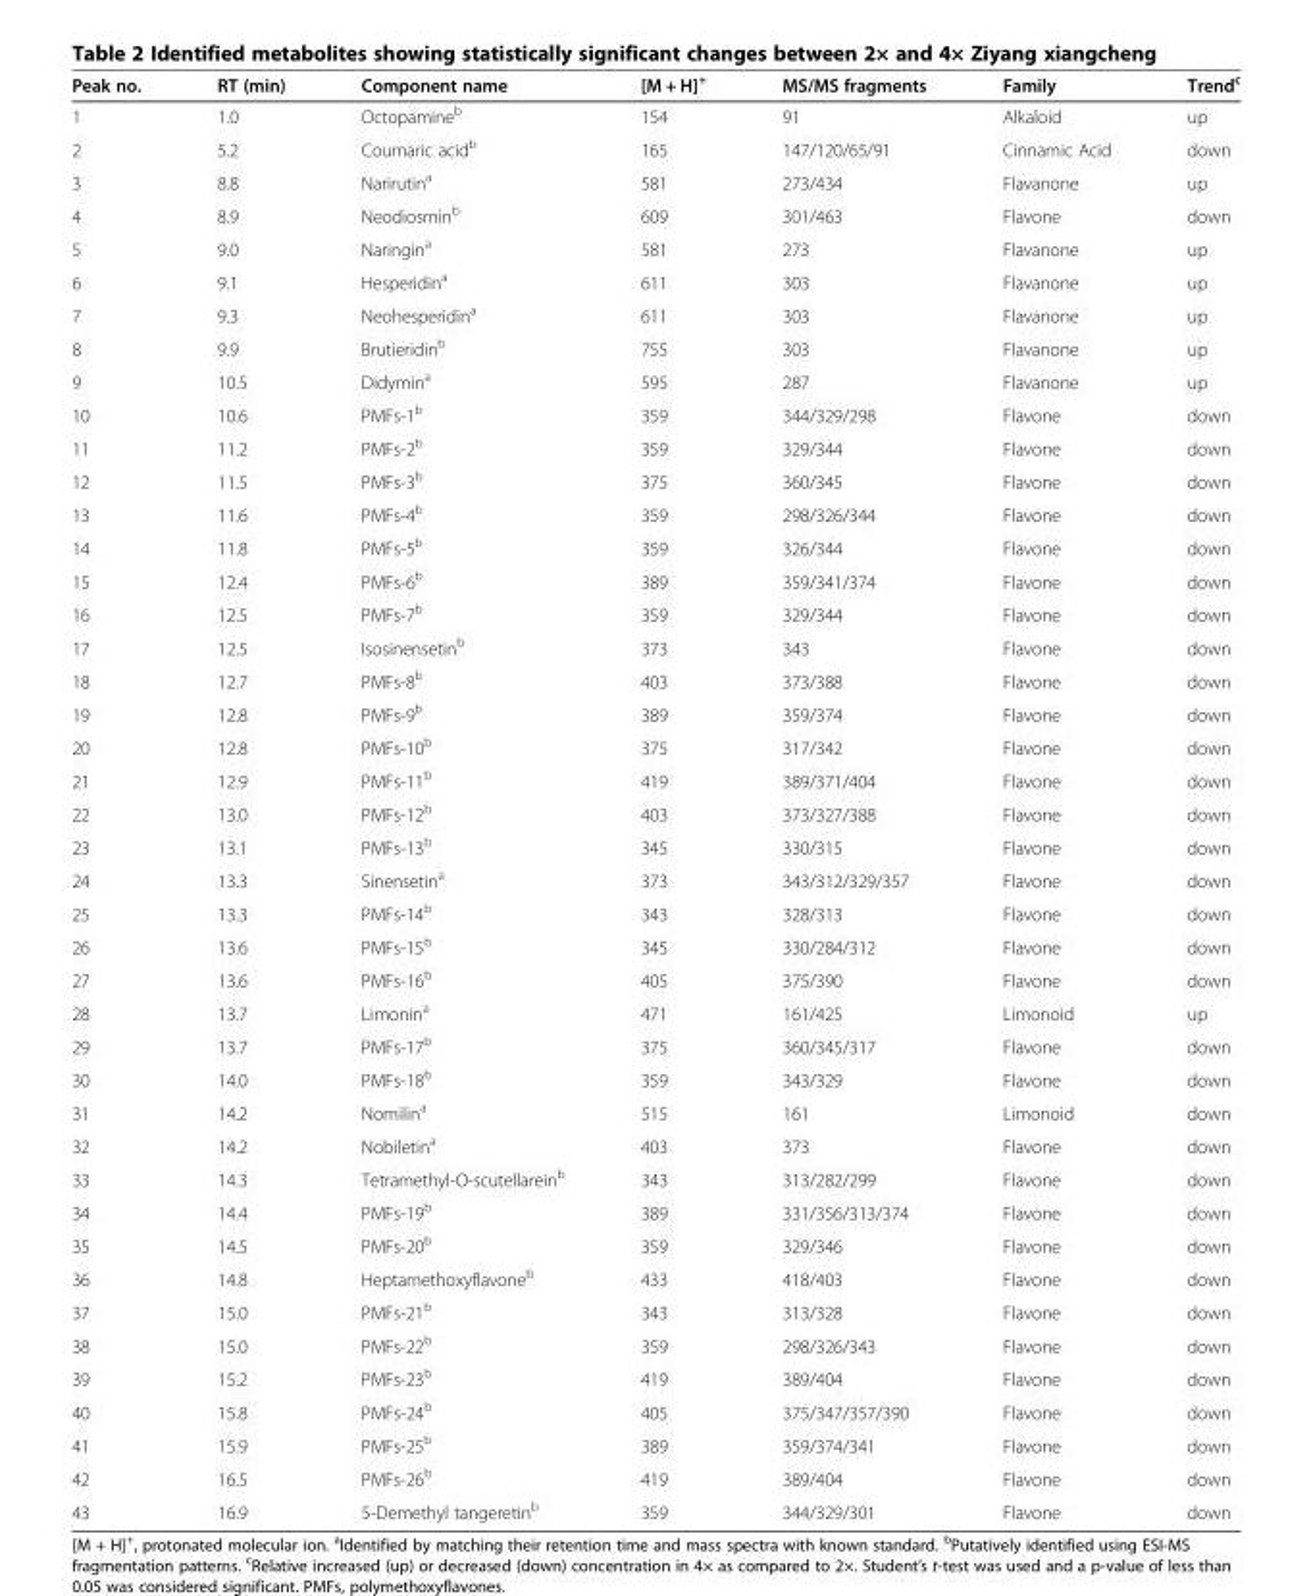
<table><thead><tr><td>Peak no.</td><td>RT (min)</td><td>Component name</td><td>[M + H]<sup>+</sup></td><td>MS/MS fragments</td><td>Family</td><td>Trend<sup>c</sup></td></tr></thead><tbody><tr><td>1</td><td>1.0</td><td>Octopamine<sup>b</sup></td><td>154</td><td>91</td><td>Alkaloid</td><td>up</td></tr><tr><td>2</td><td>5.2</td><td>Coumaric acid<sup>b</sup></td><td>165</td><td>147/120/65/91</td><td>Cinnamic Acid</td><td>down</td></tr><tr><td>3</td><td>8.8</td><td>Narirutin<sup>a</sup></td><td>581</td><td>273/434</td><td>Flavanone</td><td>up</td></tr><tr><td>4</td><td>8.9</td><td>Neodiosmin<sup>b</sup></td><td>609</td><td>301/463</td><td>Flavone</td><td>down</td></tr><tr><td>5</td><td>9.0</td><td>Naringin<sup>a</sup></td><td>581</td><td>273</td><td>Flavanone</td><td>up</td></tr><tr><td>6</td><td>9.1</td><td>Hesperidin<sup>a</sup></td><td>611</td><td>303</td><td>Flavanone</td><td>up</td></tr><tr><td>7</td><td>9.3</td><td>Neohesperidin<sup>a</sup></td><td>611</td><td>303</td><td>Flavanone</td><td>up</td></tr><tr><td>8</td><td>9.9</td><td>Brutieridin<sup>b</sup></td><td>755</td><td>303</td><td>Flavanone</td><td>up</td></tr><tr><td>9</td><td>10.5</td><td>Didymin<sup>a</sup></td><td>595</td><td>287</td><td>Flavanone</td><td>up</td></tr><tr><td>10</td><td>10.6</td><td>PMFs-1<sup>b</sup></td><td>359</td><td>344/329/298</td><td>Flavone</td><td>down</td></tr><tr><td>11</td><td>11.2</td><td>PMFs-2<sup>b</sup></td><td>359</td><td>329/344</td><td>Flavone</td><td>down</td></tr><tr><td>12</td><td>11.5</td><td>PMFs-3<sup>b</sup></td><td>375</td><td>360/345</td><td>Flavone</td><td>down</td></tr><tr><td>13</td><td>11.6</td><td>PMFs-4<sup>b</sup></td><td>359</td><td>298/326/344</td><td>Flavone</td><td>down</td></tr><tr><td>14</td><td>11.8</td><td>PMFs-5<sup>b</sup></td><td>359</td><td>326/344</td><td>Flavone</td><td>down</td></tr><tr><td>15</td><td>12.4</td><td>PMFs-6<sup>b</sup></td><td>389</td><td>359/341/374</td><td>Flavone</td><td>down</td></tr><tr><td>16</td><td>12.5</td><td>PMFs-7<sup>b</sup></td><td>359</td><td>329/344</td><td>Flavone</td><td>down</td></tr><tr><td>17</td><td>12.5</td><td>Isosinensetin<sup>b</sup></td><td>373</td><td>343</td><td>Flavone</td><td>down</td></tr><tr><td>18</td><td>12.7</td><td>PMFs-8<sup>b</sup></td><td>403</td><td>373/388</td><td>Flavone</td><td>down</td></tr><tr><td>19</td><td>12.8</td><td>PMFs-9<sup>b</sup></td><td>389</td><td>359/374</td><td>Flavone</td><td>down</td></tr><tr><td>20</td><td>12.8</td><td>PMFs-10<sup>b</sup></td><td>375</td><td>317/342</td><td>Flavone</td><td>down</td></tr><tr><td>21</td><td>12.9</td><td>PMFs-11<sup>b</sup></td><td>419</td><td>389/371/404</td><td>Flavone</td><td>down</td></tr><tr><td>22</td><td>13.0</td><td>PMFs-12<sup>b</sup></td><td>403</td><td>373/327/388</td><td>Flavone</td><td>down</td></tr><tr><td>23</td><td>13.1</td><td>PMFs-13<sup>b</sup></td><td>345</td><td>330/315</td><td>Flavone</td><td>down</td></tr><tr><td>24</td><td>13.3</td><td>Sinensetin<sup>a</sup></td><td>373</td><td>343/312/329/357</td><td>Flavone</td><td>down</td></tr><tr><td>25</td><td>13.3</td><td>PMFs-14<sup>b</sup></td><td>343</td><td>328/313</td><td>Flavone</td><td>down</td></tr><tr><td>26</td><td>13.6</td><td>PMFs-15<sup>b</sup></td><td>345</td><td>330/284/312</td><td>Flavone</td><td>down</td></tr><tr><td>27</td><td>13.6</td><td>PMFs-16<sup>b</sup></td><td>405</td><td>375/390</td><td>Flavone</td><td>down</td></tr><tr><td>28</td><td>13.7</td><td>Limonin<sup>a</sup></td><td>471</td><td>161/425</td><td>Limonoid</td><td>up</td></tr><tr><td>29</td><td>13.7</td><td>PMFs-17<sup>b</sup></td><td>375</td><td>360/345/317</td><td>Flavone</td><td>down</td></tr><tr><td>30</td><td>14.0</td><td>PMFs-18<sup>b</sup></td><td>359</td><td>343/329</td><td>Flavone</td><td>down</td></tr><tr><td>31</td><td>14.2</td><td>Nomilin<sup>a</sup></td><td>515</td><td>161</td><td>Limonoid</td><td>down</td></tr><tr><td>32</td><td>14.2</td><td>Nobiletin<sup>a</sup></td><td>403</td><td>373</td><td>Flavone</td><td>down</td></tr><tr><td>33</td><td>14.3</td><td>Tetramethyl-O-scutellarein<sup>b</sup></td><td>343</td><td>313/282/299</td><td>Flavone</td><td>down</td></tr><tr><td>34</td><td>14.4</td><td>PMFs-19<sup>b</sup></td><td>389</td><td>331/356/313/374</td><td>Flavone</td><td>down</td></tr><tr><td>35</td><td>14.5</td><td>PMFs-20<sup>b</sup></td><td>359</td><td>329/346</td><td>Flavone</td><td>down</td></tr><tr><td>36</td><td>14.8</td><td>Heptamethoxyflavone<sup>b</sup></td><td>433</td><td>418/403</td><td>Flavone</td><td>down</td></tr><tr><td>37</td><td>15.0</td><td>PMFs-21<sup>b</sup></td><td>343</td><td>313/328</td><td>Flavone</td><td>down</td></tr><tr><td>38</td><td>15.0</td><td>PMFs-22<sup>b</sup></td><td>359</td><td>298/326/343</td><td>Flavone</td><td>down</td></tr><tr><td>39</td><td>15.2</td><td>PMFs-23<sup>b</sup></td><td>419</td><td>389/404</td><td>Flavone</td><td>down</td></tr><tr><td>40</td><td>15.8</td><td>PMFs-24<sup>b</sup></td><td>405</td><td>375/347/357/390</td><td>Flavone</td><td>down</td></tr><tr><td>41</td><td>15.9</td><td>PMFs-25<sup>b</sup></td><td>389</td><td>359/374/341</td><td>Flavone</td><td>down</td></tr><tr><td>42</td><td>16.5</td><td>PMFs-26<sup>b</sup></td><td>419</td><td>389/404</td><td>Flavone</td><td>down</td></tr><tr><td>43</td><td>16.9</td><td>5-Demethyl tangeretin<sup>b</sup></td><td>359</td><td>344/329/301</td><td>Flavone</td><td>down</td></tr></tbody></table>